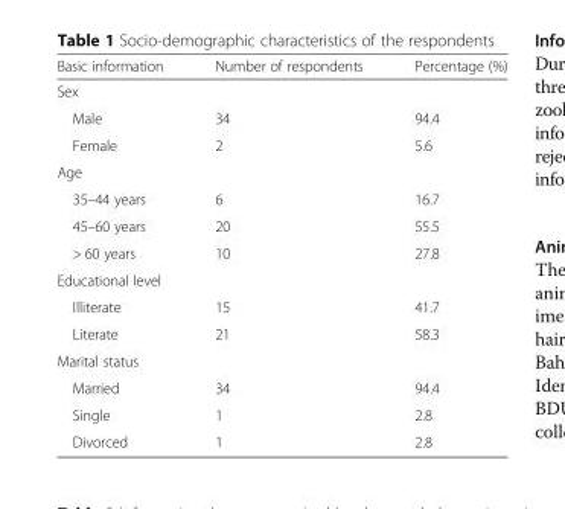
<table><thead><tr><td>Basic information</td><td>Number of respondents</td><td>Percentage (%)</td></tr></thead><tbody><tr><td colspan="3">Sex</td></tr><tr><td>Male</td><td>34</td><td>94.4</td></tr><tr><td>Female</td><td>2</td><td>5.6</td></tr><tr><td colspan="3">Age</td></tr><tr><td>35–44 years</td><td>6</td><td>16.7</td></tr><tr><td>45–60 years</td><td>20</td><td>55.5</td></tr><tr><td>&gt; 60 years</td><td>10</td><td>27.8</td></tr><tr><td colspan="3">Educational level</td></tr><tr><td>Illiterate</td><td>15</td><td>41.7</td></tr><tr><td>Literate</td><td>21</td><td>58.3</td></tr><tr><td colspan="3">Marital status</td></tr><tr><td>Married</td><td>34</td><td>94.4</td></tr><tr><td>Single</td><td>1</td><td>2.8</td></tr><tr><td>Divorced</td><td>1</td><td>2.8</td></tr></tbody></table>